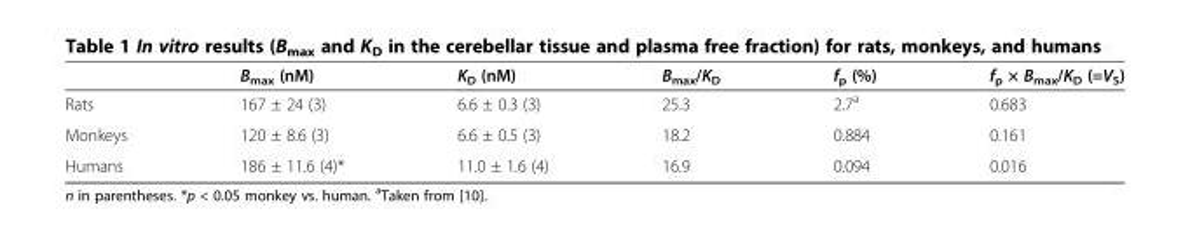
<table><thead><tr><td></td><td>B<sub>max</sub> (nM)</td><td>K<sub>D</sub> (nM)</td><td>B<sub>max</sub>/K<sub>D</sub></td><td>f<sub>p</sub> (%)</td><td>fp × Bmax/KD (=VS)</td></tr></thead><tbody><tr><td>Rats</td><td>167 ± 24 (3)</td><td>6.6 ± 0.3 (3)</td><td>25.3</td><td>2.7<sup>a</sup></td><td>0.683</td></tr><tr><td>Monkeys</td><td>120 ± 8.6 (3)</td><td>6.6 ± 0.5 (3)</td><td>18.2</td><td>0.884</td><td>0.161</td></tr><tr><td>Humans</td><td>186 ± 11.6 (4)*</td><td>11.0 ± 1.6 (4)</td><td>16.9</td><td>0.094</td><td>0.016</td></tr></tbody></table>